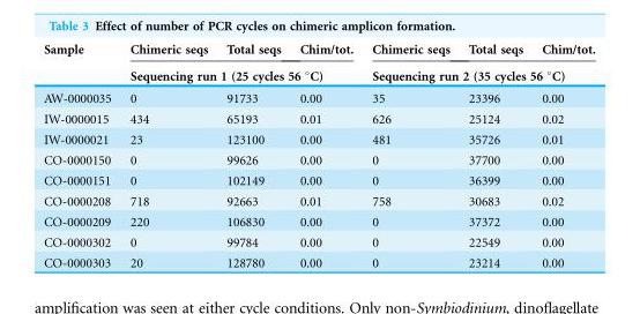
<table><thead><tr><td rowspan="2">Sample</td><td>Chimeric seqs</td><td>Total seqs</td><td>Chim/tot.</td><td>Chimeric seqs</td><td>Total seqs</td><td>Chim/tot.</td></tr><tr><td colspan="3">Sequencing run 1 (25 cycles 56 °C)</td><td colspan="3">Sequencing run 2 (35 cycles 56 °C)</td></tr></thead><tbody><tr><td>AW-0000035</td><td>0</td><td>91733</td><td>0.00</td><td>35</td><td>23396</td><td>0.00</td></tr><tr><td>IW-0000015</td><td>434</td><td>65193</td><td>0.01</td><td>626</td><td>25124</td><td>0.02</td></tr><tr><td>IW-0000021</td><td>23</td><td>123100</td><td>0.00</td><td>481</td><td>35726</td><td>0.01</td></tr><tr><td>CO-0000150</td><td>0</td><td>99626</td><td>0.00</td><td>0</td><td>37700</td><td>0.00</td></tr><tr><td>CO-0000151</td><td>0</td><td>102149</td><td>0.00</td><td>0</td><td>36399</td><td>0.00</td></tr><tr><td>CO-0000208</td><td>718</td><td>92663</td><td>0.01</td><td>758</td><td>30683</td><td>0.02</td></tr><tr><td>CO-0000209</td><td>220</td><td>106830</td><td>0.00</td><td>0</td><td>37372</td><td>0.00</td></tr><tr><td>CO-0000302</td><td>0</td><td>99784</td><td>0.00</td><td>0</td><td>22549</td><td>0.00</td></tr><tr><td>CO-0000303</td><td>20</td><td>128780</td><td>0.00</td><td>0</td><td>23214</td><td>0.00</td></tr></tbody></table>